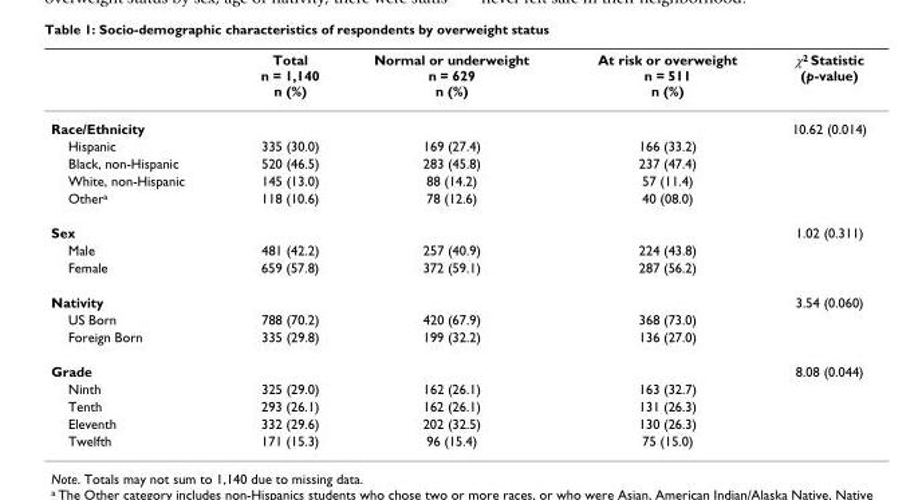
<table><thead><tr><td></td><td>Total n = 1,140 n (%)</td><td>Normal or underweight n = 629 n (%)</td><td>At risk or overweight n = 511 n (%)</td><td>χ<sup>2</sup> Statistic (p-value)</td></tr></thead><tbody><tr><td>Race/Ethnicity</td><td></td><td></td><td></td><td>10.62 (0.014)</td></tr><tr><td>Hispanic</td><td>335 (30.0)</td><td>169 (27.4)</td><td>166 (33.2)</td><td></td></tr><tr><td>Black, non-Hispanic</td><td>520 (46.5)</td><td>283 (45.8)</td><td>237 (47.4)</td><td></td></tr><tr><td>White, non-Hispanic</td><td>145 (13.0)</td><td>88 (14.2)</td><td>57 (11.4)</td><td></td></tr><tr><td>Other<sup>a</sup></td><td>118 (10.6)</td><td>78 (12.6)</td><td>40 (08.0)</td><td></td></tr><tr><td>Sex</td><td></td><td></td><td></td><td>1.02 (0.311)</td></tr><tr><td>Male</td><td>481 (42.2)</td><td>257 (40.9)</td><td>224 (43.8)</td><td></td></tr><tr><td>Female</td><td>659 (57.8)</td><td>372 (59.1)</td><td>287 (56.2)</td><td></td></tr><tr><td>Nativity</td><td></td><td></td><td></td><td>3.54 (0.060)</td></tr><tr><td>US Born</td><td>788 (70.2)</td><td>420 (67.9)</td><td>368 (73.0)</td><td></td></tr><tr><td>Foreign Born</td><td>335 (29.8)</td><td>199 (32.2)</td><td>136 (27.0)</td><td></td></tr><tr><td>Grade</td><td></td><td></td><td></td><td>8.08 (0.044)</td></tr><tr><td>Ninth</td><td>325 (29.0)</td><td>162 (26.1)</td><td>163 (32.7)</td><td></td></tr><tr><td>Tenth</td><td>293 (26.1)</td><td>162 (26.1)</td><td>131 (26.3)</td><td></td></tr><tr><td>Eleventh</td><td>332 (29.6)</td><td>202 (32.5)</td><td>130 (26.3)</td><td></td></tr><tr><td>Twelfth</td><td>171 (15.3)</td><td>96 (15.4)</td><td>75 (15.0)</td><td></td></tr></tbody></table>